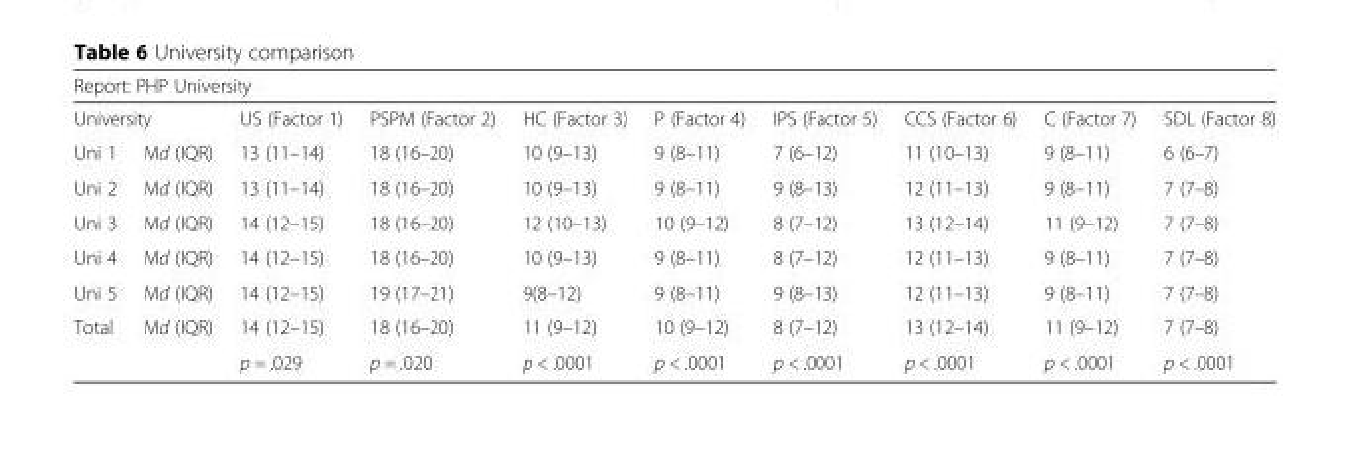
<table><thead><tr><td colspan="10">Report: PHP University</td></tr><tr><td colspan="2">University</td><td rowspan="2">US (Factor 1) 13 (11–14)</td><td rowspan="2">PSPM (Factor 2) 18 (16–20)</td><td rowspan="2">HC (Factor 3) 10 (9–13)</td><td rowspan="2">P (Factor 4) 9 (8–11)</td><td rowspan="2">IPS (Factor 5) 7 (6–12)</td><td rowspan="2">CCS (Factor 6) 11 (10–13)</td><td rowspan="2">C (Factor 7) 9 (8–11)</td><td rowspan="2">SDL (Factor 8) 6 (6–7)</td></tr><tr><td>Uni 1</td><td>Md (IQR)</td></tr></thead><tbody><tr><td>Uni 2</td><td>Md (IQR)</td><td>13 (11–14)</td><td>18 (16–20)</td><td>10 (9–13)</td><td>9 (8–11)</td><td>9 (8–13)</td><td>12 (11–13)</td><td>9 (8–11)</td><td>7 (7–8)</td></tr><tr><td>Uni 3</td><td>Md (IQR)</td><td>14 (12–15)</td><td>18 (16–20)</td><td>12 (10–13)</td><td>10 (9–12)</td><td>8 (7–12)</td><td>13 (12–14)</td><td>11 (9–12)</td><td>7 (7–8)</td></tr><tr><td>Uni 4</td><td>Md (IQR)</td><td>14 (12–15)</td><td>18 (16–20)</td><td>10 (9–13)</td><td>9 (8–11)</td><td>8 (7–12)</td><td>12 (11–13)</td><td>9 (8–11)</td><td>7 (7–8)</td></tr><tr><td>Uni 5</td><td>Md (IQR)</td><td>14 (12–15)</td><td>19 (17–21)</td><td>9(8–12)</td><td>9 (8–11)</td><td>9 (8–13)</td><td>12 (11–13)</td><td>9 (8–11)</td><td>7 (7–8)</td></tr><tr><td rowspan="2">Total</td><td>Md (IQR)</td><td>14 (12–15)</td><td>18 (16–20)</td><td>11 (9–12)</td><td>10 (9–12)</td><td>8 (7–12)</td><td>13 (12–14)</td><td>11 (9–12)</td><td>7 (7–8)</td></tr><tr><td></td><td>p = .029</td><td>p = .020</td><td>p &lt; .0001</td><td>p &lt; .0001</td><td>p &lt; .0001</td><td>p &lt; .0001</td><td>p &lt; .0001</td><td>p &lt; .0001</td></tr></tbody></table>